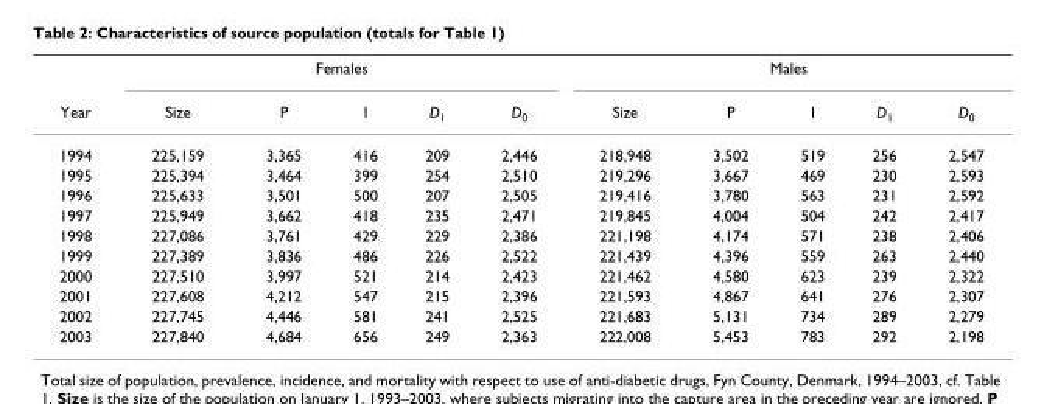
<table><thead><tr><td rowspan="2">Year</td><td colspan="5">Females</td><td colspan="5">Males</td></tr><tr><td>Size</td><td>P</td><td>I</td><td>D<sub>1</sub></td><td>D<sub>0</sub></td><td>Size</td><td>P</td><td>I</td><td>D<sub>1</sub></td><td>D<sub>0</sub></td></tr></thead><tbody><tr><td>1994</td><td>225,159</td><td>3,365</td><td>416</td><td>209</td><td>2,446</td><td>218,948</td><td>3,502</td><td>519</td><td>256</td><td>2,547</td></tr><tr><td>1995</td><td>225,394</td><td>3,464</td><td>399</td><td>254</td><td>2,510</td><td>219,296</td><td>3,667</td><td>469</td><td>230</td><td>2,593</td></tr><tr><td>1996</td><td>225,633</td><td>3,501</td><td>500</td><td>207</td><td>2,505</td><td>219,416</td><td>3,780</td><td>563</td><td>231</td><td>2,592</td></tr><tr><td>1997</td><td>225,949</td><td>3,662</td><td>418</td><td>235</td><td>2,471</td><td>219,845</td><td>4,004</td><td>504</td><td>242</td><td>2,417</td></tr><tr><td>1998</td><td>227,086</td><td>3,761</td><td>429</td><td>229</td><td>2,386</td><td>221,198</td><td>4,174</td><td>571</td><td>238</td><td>2,406</td></tr><tr><td>1999</td><td>227,389</td><td>3,836</td><td>486</td><td>226</td><td>2,522</td><td>221,439</td><td>4,396</td><td>559</td><td>263</td><td>2,440</td></tr><tr><td>2000</td><td>227,510</td><td>3,997</td><td>521</td><td>214</td><td>2,423</td><td>221,462</td><td>4,580</td><td>623</td><td>239</td><td>2,322</td></tr><tr><td>2001</td><td>227,608</td><td>4,212</td><td>547</td><td>215</td><td>2,396</td><td>221,593</td><td>4,867</td><td>641</td><td>276</td><td>2,307</td></tr><tr><td>2002</td><td>227,745</td><td>4,446</td><td>581</td><td>241</td><td>2,525</td><td>221,683</td><td>5,131</td><td>734</td><td>289</td><td>2,279</td></tr><tr><td>2003</td><td>227,840</td><td>4,684</td><td>656</td><td>249</td><td>2,363</td><td>222,008</td><td>5,453</td><td>783</td><td>292</td><td>2,198</td></tr></tbody></table>